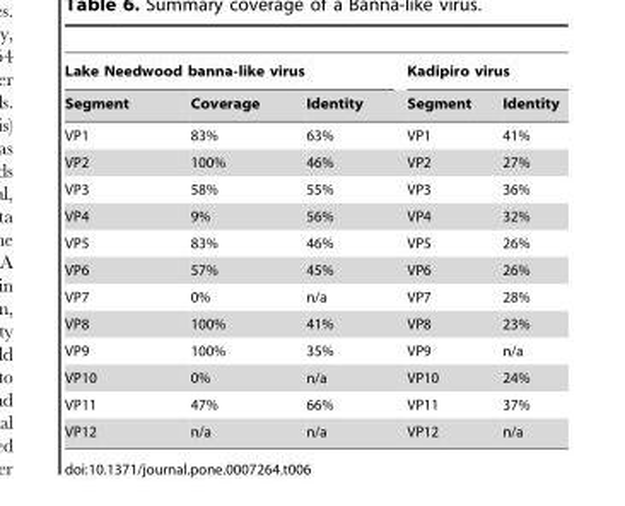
<table><thead><tr><td colspan="3">Lake Needwood banna-like virus</td><td colspan="2">Kadipiro virus</td></tr><tr><td>Segment</td><td>Coverage</td><td>Identity</td><td>Segment</td><td>Identity</td></tr></thead><tbody><tr><td>VP1</td><td>83%</td><td>63%</td><td>VP1</td><td>41%</td></tr><tr><td>VP2</td><td>100%</td><td>46%</td><td>VP2</td><td>27%</td></tr><tr><td>VP3</td><td>58%</td><td>55%</td><td>VP3</td><td>36%</td></tr><tr><td>VP4</td><td>9%</td><td>56%</td><td>VP4</td><td>32%</td></tr><tr><td>VP5</td><td>83%</td><td>46%</td><td>VP5</td><td>26%</td></tr><tr><td>VP6</td><td>57%</td><td>45%</td><td>VP6</td><td>26%</td></tr><tr><td>VP7</td><td>0%</td><td>n/a</td><td>VP7</td><td>28%</td></tr><tr><td>VP8</td><td>100%</td><td>41%</td><td>VP8</td><td>23%</td></tr><tr><td>VP9</td><td>100%</td><td>35%</td><td>VP9</td><td>n/a</td></tr><tr><td>VP10</td><td>0%</td><td>n/a</td><td>VP10</td><td>24%</td></tr><tr><td>VP11</td><td>47%</td><td>66%</td><td>VP11</td><td>37%</td></tr><tr><td>VP12</td><td>n/a</td><td>n/a</td><td>VP12</td><td>n/a</td></tr></tbody></table>